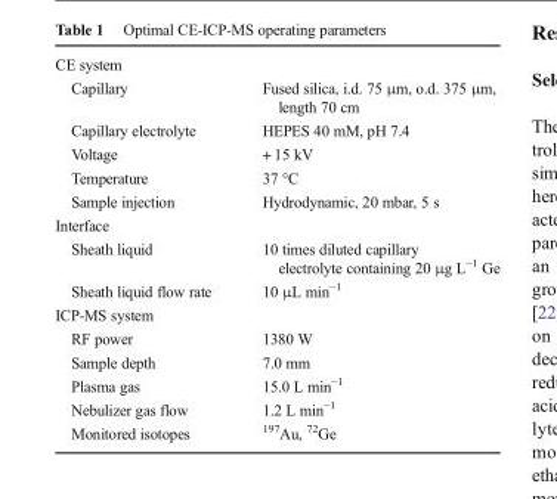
<table><tbody><tr><td colspan="2">CE system</td></tr><tr><td>Capillary</td><td>Fused silica, i.d. 75 μm, o.d. 375 μm, length 70 cm</td></tr><tr><td>Capillary electrolyte</td><td>HEPES 40 mM, pH 7.4</td></tr><tr><td>Voltage</td><td>+ 15 kV</td></tr><tr><td>Temperature</td><td>37 °C</td></tr><tr><td>Sample injection</td><td>Hydrodynamic, 20 mbar, 5 s</td></tr><tr><td colspan="2">Interface</td></tr><tr><td>Sheath liquid</td><td>10 times diluted capillary electrolyte containing 20 μg L<sup>−1</sup> Ge</td></tr><tr><td>Sheath liquid flow rate</td><td>10 μL min<sup>−1</sup></td></tr><tr><td colspan="2">ICP-MS system</td></tr><tr><td>RF power</td><td>1380 W</td></tr><tr><td>Sample depth</td><td>7.0 mm</td></tr><tr><td>Plasma gas</td><td>15.0 L min<sup>−1</sup></td></tr><tr><td>Nebulizer gas flow</td><td>1.2 L min<sup>−1</sup></td></tr><tr><td>Monitored isotopes</td><td><sup>197</sup>Au, <sup>72</sup>Ge</td></tr></tbody></table>